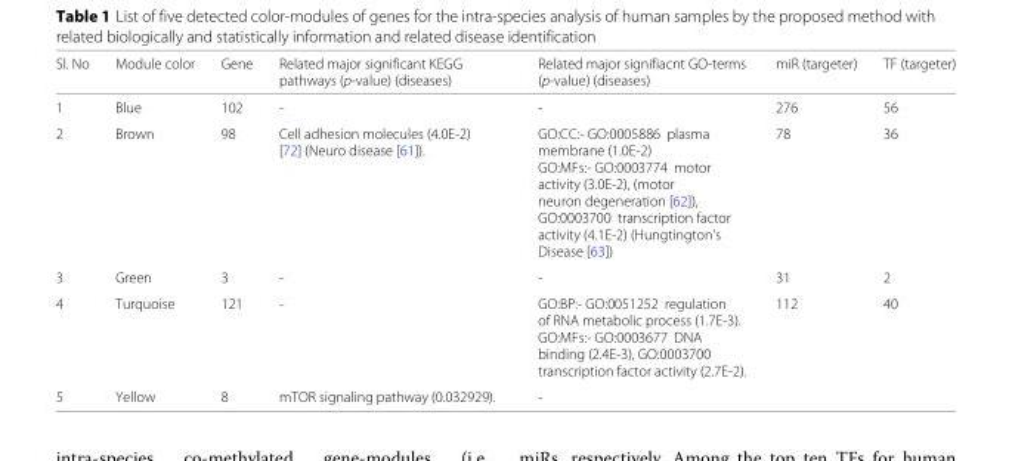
<table><thead><tr><td>Sl. No</td><td>Module color</td><td>Gene</td><td>Related major significant KEGG pathways (p-value) (diseases)</td><td>Related major signifiacnt GO-terms (p-value) (diseases)</td><td>miR (targeter)</td><td>TF (targeter)</td></tr></thead><tbody><tr><td>1</td><td>Blue</td><td>102</td><td>-</td><td>-</td><td>276</td><td>56</td></tr><tr><td>2</td><td>Brown</td><td>98</td><td>Cell adhesion molecules (4.0E-2) [72] (Neuro disease [61]).</td><td>GO:CC:- GO:0005886 plasma membrane (1.0E-2) GO:MFs:- GO:0003774 motor activity (3.0E-2), (motor neuron degeneration [62]), GO:0003700 transcription factor activity (4.1E-2) (Hungtington’s Disease [63])</td><td>78</td><td>36</td></tr><tr><td>3</td><td>Green</td><td>3</td><td>-</td><td>-</td><td>31</td><td>2</td></tr><tr><td>4</td><td>Turquoise</td><td>121</td><td>-</td><td>GO:BP:- GO:0051252 regulation of RNA metabolic process (1.7E-3). GO:MFs:- GO:0003677 DNA binding (2.4E-3), GO:0003700 transcription factor activity (2.7E-2).</td><td>112</td><td>40</td></tr><tr><td>5</td><td>Yellow</td><td>8</td><td>mTOR signaling pathway (0.032929).</td><td>-</td><td></td><td></td></tr></tbody></table>